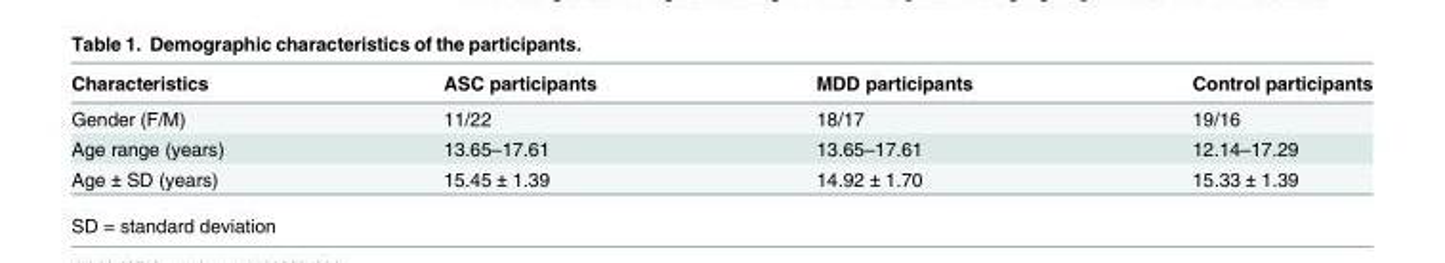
<table><thead><tr><td>Characteristics</td><td>ASC participants</td><td>MDD participants</td><td>Control participants</td></tr></thead><tbody><tr><td>Gender (F/M)</td><td>11/22</td><td>18/17</td><td>19/16</td></tr><tr><td>Age range (years)</td><td>13.65–17.61</td><td>13.65–17.61</td><td>12.14–17.29</td></tr><tr><td>Age ± SD (years)</td><td>15.45 ± 1.39</td><td>14.92 ± 1.70</td><td>15.33 ± 1.39</td></tr></tbody></table>